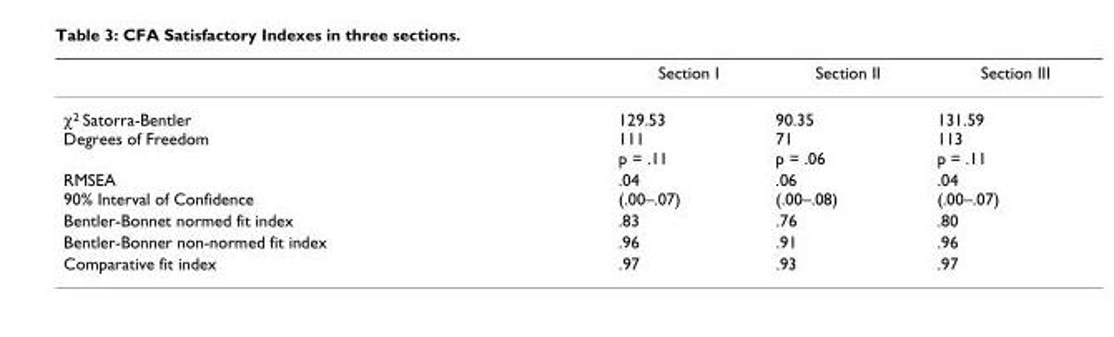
<table><thead><tr><td></td><td>Section I</td><td>Section II</td><td>Section III</td></tr></thead><tbody><tr><td>χ<sup>2</sup> Satorra-Bentler Degrees of Freedom</td><td>129.53 111 p = .11</td><td>90.35 71 p = .06</td><td>131.59 113 p = .11</td></tr><tr><td>RMSEA 90% Interval of Confidence</td><td>.04 (.00–.07)</td><td>.06 (.00–.08)</td><td>.04 (.00–.07)</td></tr><tr><td>Bentler-Bonnet normed fit index</td><td>.83</td><td>.76</td><td>.80</td></tr><tr><td>Bentler-Bonner non-normed fit index</td><td>.96</td><td>.91</td><td>.96</td></tr><tr><td>Comparative fit index</td><td>.97</td><td>.93</td><td>.97</td></tr></tbody></table>